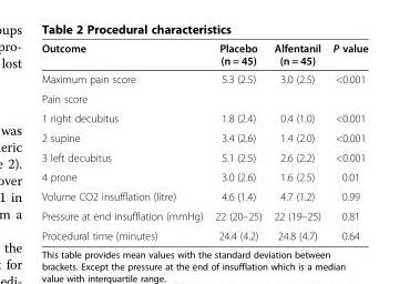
<table><thead><tr><td>Outcome</td><td>Placebo (n = 45)</td><td>Alfentanil (n = 45)</td><td>P value</td></tr></thead><tbody><tr><td>Maximum pain score</td><td>5.3 (2.5)</td><td>3.0 (2.5)</td><td>&lt;0.001</td></tr><tr><td colspan="4">Pain score</td></tr><tr><td>1 right decubitus</td><td>1.8 (2.4)</td><td>0.4 (1.0)</td><td>&lt;0.001</td></tr><tr><td>2 supine</td><td>3.4 (2.6)</td><td>1.4 (2.0)</td><td>&lt;0.001</td></tr><tr><td>3 left decubitus</td><td>5.1 (2.5)</td><td>2.6 (2.2)</td><td>&lt;0.001</td></tr><tr><td>4 prone</td><td>3.0 (2.6)</td><td>1.6 (2.5)</td><td>0.01</td></tr><tr><td>Volume CO2 insufflation (litre)</td><td>4.6 (1.4)</td><td>4.7 (1.2)</td><td>0.99</td></tr><tr><td>Pressure at end insufflation (mmHg)</td><td>22 (20–25)</td><td>22 (19–25)</td><td>0.81</td></tr><tr><td>Procedural time (minutes)</td><td>24.4 (4.2)</td><td>24.8 (4.7)</td><td>0.64</td></tr></tbody></table>